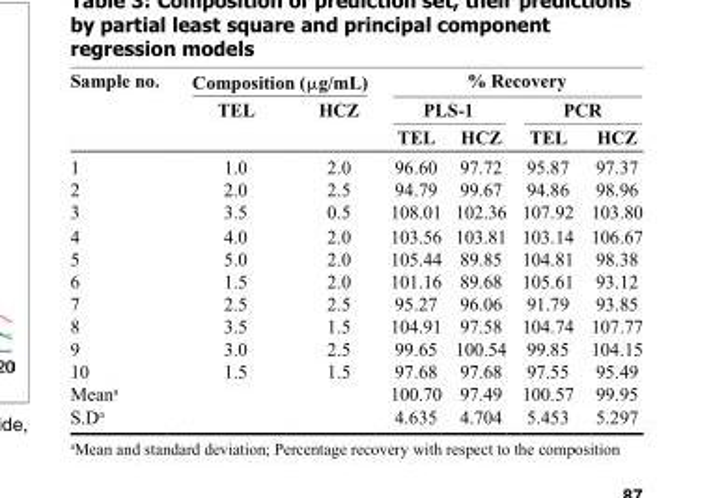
<table><thead><tr><td rowspan="3">Sample no.</td><td colspan="2">Composition (μg/mL)</td><td colspan="4">% Recovery</td></tr><tr><td rowspan="2">TEL</td><td rowspan="2">HCZ</td><td colspan="2">PLS-1</td><td colspan="2">PCR</td></tr><tr><td>TEL</td><td>HCZ</td><td>TEL</td><td>HCZ</td></tr></thead><tbody><tr><td>1</td><td>1.0</td><td>2.0</td><td>96.60</td><td>97.72</td><td>95.87</td><td>97.37</td></tr><tr><td>2</td><td>2.0</td><td>2.5</td><td>94.79</td><td>99.67</td><td>94.86</td><td>98.96</td></tr><tr><td>3</td><td>3.5</td><td>0.5</td><td>108.01</td><td>102.36</td><td>107.92</td><td>103.80</td></tr><tr><td>4</td><td>4.0</td><td>2.0</td><td>103.56</td><td>103.81</td><td>103.14</td><td>106.67</td></tr><tr><td>5</td><td>5.0</td><td>2.0</td><td>105.44</td><td>89.85</td><td>104.81</td><td>98.38</td></tr><tr><td>6</td><td>1.5</td><td>2.0</td><td>101.16</td><td>89.68</td><td>105.61</td><td>93.12</td></tr><tr><td>7</td><td>2.5</td><td>2.5</td><td>95.27</td><td>96.06</td><td>91.79</td><td>93.85</td></tr><tr><td>8</td><td>3.5</td><td>1.5</td><td>104.91</td><td>97.58</td><td>104.74</td><td>107.77</td></tr><tr><td>9</td><td>3.0</td><td>2.5</td><td>99.65</td><td>100.54</td><td>99.85</td><td>104.15</td></tr><tr><td>10</td><td>1.5</td><td>1.5</td><td>97.68</td><td>97.68</td><td>97.55</td><td>95.49</td></tr><tr><td>Mean<sup>a</sup></td><td></td><td></td><td>100.70</td><td>97.49</td><td>100.57</td><td>99.95</td></tr><tr><td>S.D<sup>a</sup></td><td></td><td></td><td>4.635</td><td>4.704</td><td>5.453</td><td>5.297</td></tr></tbody></table>